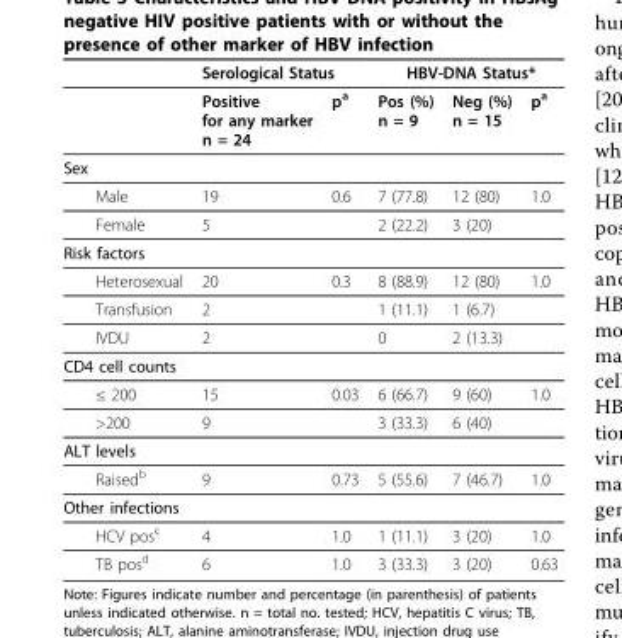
<table><thead><tr><td rowspan="2"></td><td colspan="2">Serological Status</td><td colspan="3">HBV-DNA Status*</td></tr><tr><td>Positive for any marker n = 24</td><td>p<sup>a</sup></td><td>Pos (%) n = 9</td><td>Neg (%) n = 15</td><td>p<sup>a</sup></td></tr></thead><tbody><tr><td colspan="6">Sex</td></tr><tr><td>Male</td><td>19</td><td>0.6</td><td>7 (77.8)</td><td>12 (80)</td><td>1.0</td></tr><tr><td>Female</td><td>5</td><td></td><td>2 (22.2)</td><td>3 (20)</td><td></td></tr><tr><td colspan="6">Risk factors</td></tr><tr><td>Heterosexual</td><td>20</td><td>0.3</td><td>8 (88.9)</td><td>12 (80)</td><td>1.0</td></tr><tr><td>Transfusion</td><td>2</td><td></td><td>1 (11.1)</td><td>1 (6.7)</td><td></td></tr><tr><td>IVDU</td><td>2</td><td></td><td>0</td><td>2 (13.3)</td><td></td></tr><tr><td colspan="6">CD4 cell counts</td></tr><tr><td>≤ 200</td><td>15</td><td>0.03</td><td>6 (66.7)</td><td>9 (60)</td><td>1.0</td></tr><tr><td>&gt;200</td><td>9</td><td></td><td>3 (33.3)</td><td>6 (40)</td><td></td></tr><tr><td colspan="6">ALT levels</td></tr><tr><td>Raised<sup>b</sup></td><td>9</td><td>0.73</td><td>5 (55.6)</td><td>7 (46.7)</td><td>1.0</td></tr><tr><td colspan="6">Other infections</td></tr><tr><td>HCV pos<sup>c</sup></td><td>4</td><td>1.0</td><td>1 (11.1)</td><td>3 (20)</td><td>1.0</td></tr><tr><td>TB pos<sup>d</sup></td><td>6</td><td>1.0</td><td>3 (33.3)</td><td>3 (20)</td><td>0.63</td></tr></tbody></table>